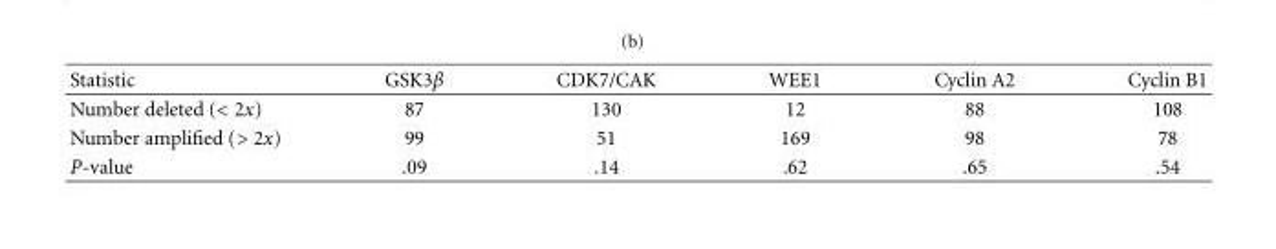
<table><thead><tr><td>Statistic</td><td>GSK3β</td><td>CDK7/CAK</td><td>WEE1</td><td>Cyclin A2</td><td>Cyclin B1</td></tr></thead><tbody><tr><td>Number deleted (&lt; 2x)</td><td>87</td><td>130</td><td>12</td><td>88</td><td>108</td></tr><tr><td>Number amplified (&gt; 2x)</td><td>99</td><td>51</td><td>169</td><td>98</td><td>78</td></tr><tr><td>P-value</td><td>.09</td><td>.14</td><td>.62</td><td>.65</td><td>.54</td></tr></tbody></table>